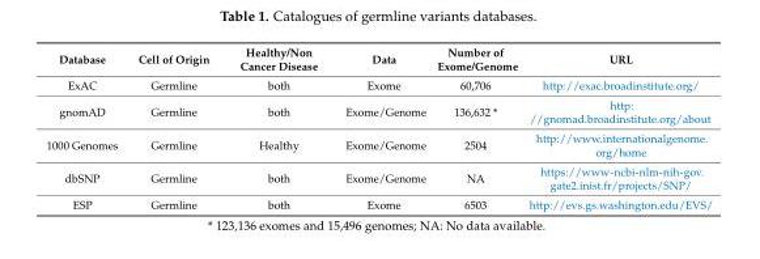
<table><thead><tr><td>Database</td><td>Cell of Origin</td><td>Healthy/Non Cancer Disease</td><td>Data</td><td>Number of Exome/Genome</td><td>URL</td></tr></thead><tbody><tr><td>ExAC</td><td>Germline</td><td>both</td><td>Exome</td><td>60,706</td><td>http://exac.broadinstitute.org/</td></tr><tr><td>gnomAD</td><td>Germline</td><td>both</td><td>Exome/Genome</td><td>136,632 *</td><td>http: //gnomad.broadinstitute.org/about</td></tr><tr><td>1000 Genomes</td><td>Germline</td><td>Healthy</td><td>Exome/Genome</td><td>2504</td><td>http://www.internationalgenome. org/home</td></tr><tr><td>dbSNP</td><td>Germline</td><td>both</td><td>Exome/Genome</td><td>NA</td><td>https://www-ncbi-nlm-nih-gov. gate2.inist.fr/projects/SNP/</td></tr><tr><td>ESP</td><td>Germline</td><td>both</td><td>Exome</td><td>6503</td><td>http://evs.gs.washington.edu/EVS/</td></tr></tbody></table>